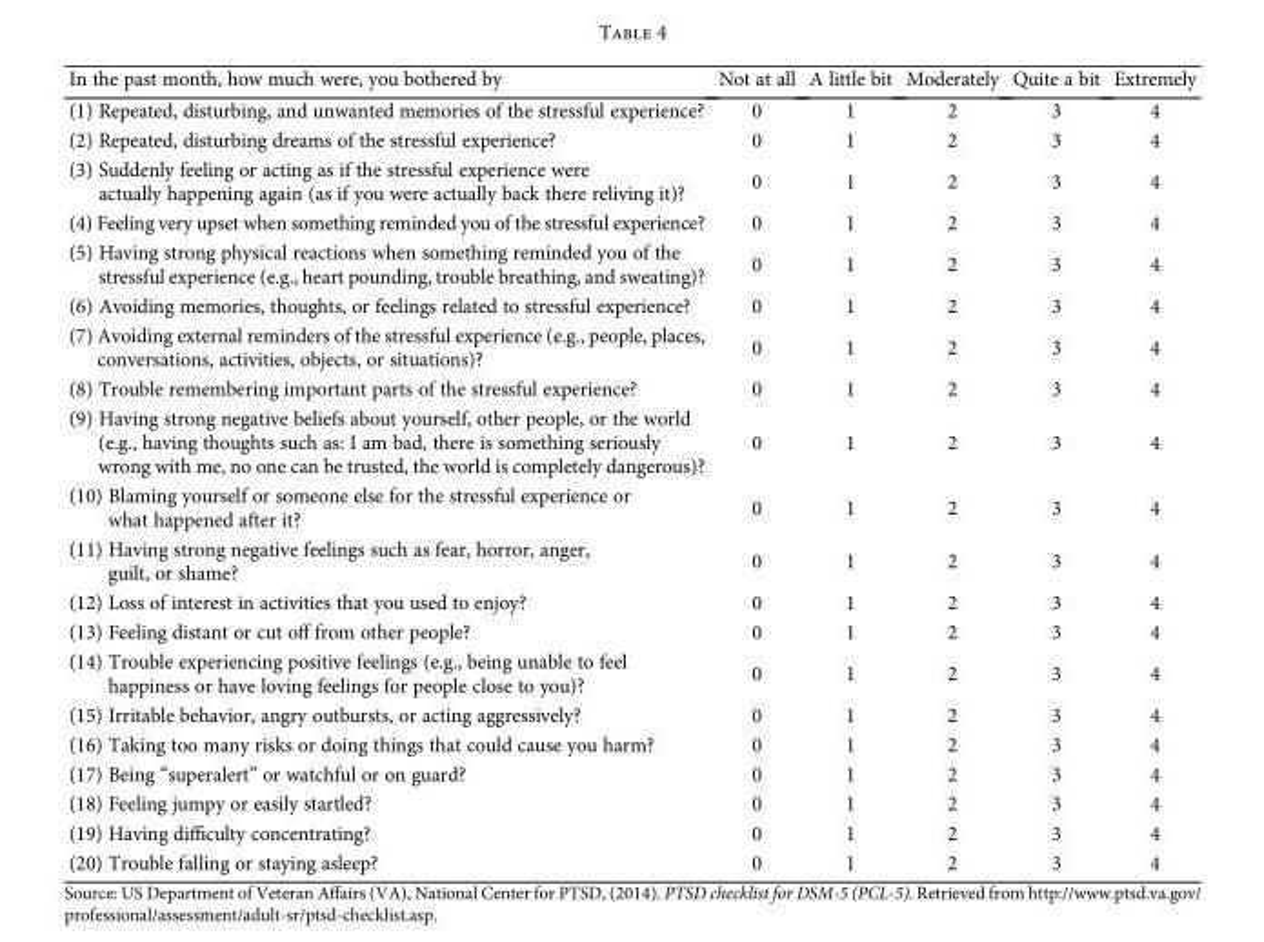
<table><thead><tr><td>In the past month, how much were, you bothered by</td><td>Not at all</td><td>A little bit</td><td>Moderately</td><td>Quite a bit</td><td>Extremely</td></tr></thead><tbody><tr><td>(1) Repeated, disturbing, and unwanted memories of the stressful experience?</td><td>0</td><td>1</td><td>2</td><td>3</td><td>4</td></tr><tr><td>(2) Repeated, disturbing dreams of the stressful experience?</td><td>0</td><td>1</td><td>2</td><td>3</td><td>4</td></tr><tr><td>(3) Suddenly feeling or acting as if the stressful experience were actually happening again (as if you were actually back there reliving it)?</td><td>0</td><td>1</td><td>2</td><td>3</td><td>4</td></tr><tr><td>(4) Feeling very upset when something reminded you of the stressful experience?</td><td>0</td><td>1</td><td>2</td><td>3</td><td>4</td></tr><tr><td>(5) Having strong physical reactions when something reminded you of the stressful experience (e.g., heart pounding, trouble breathing, and sweating)?</td><td>0</td><td>1</td><td>2</td><td>3</td><td>4</td></tr><tr><td>(6) Avoiding memories, thoughts, or feelings related to stressful experience?</td><td>0</td><td>1</td><td>2</td><td>3</td><td>4</td></tr><tr><td>(7) Avoiding external reminders of the stressful experience (e.g., people, places, conversations, activities, objects, or situations)?</td><td>0</td><td>1</td><td>2</td><td>3</td><td>4</td></tr><tr><td>(8) Trouble remembering important parts of the stressful experience?</td><td>0</td><td>1</td><td>2</td><td>3</td><td>4</td></tr><tr><td>(9) Having strong negative beliefs about yourself, other people, or the world (e.g., having thoughts such as: I am bad, there is something seriously wrong with me, no one can be trusted, the world is completely dangerous)?</td><td>0</td><td>1</td><td>2</td><td>3</td><td>4</td></tr><tr><td>(10) Blaming yourself or someone else for the stressful experience or what happened after it?</td><td>0</td><td>1</td><td>2</td><td>3</td><td>4</td></tr><tr><td>(11) Having strong negative feelings such as fear, horror, anger, guilt, or shame?</td><td>0</td><td>1</td><td>2</td><td>3</td><td>4</td></tr><tr><td>(12) Loss of interest in activities that you used to enjoy?</td><td>0</td><td>1</td><td>2</td><td>3</td><td>4</td></tr><tr><td>(13) Feeling distant or cut off from other people?</td><td>0</td><td>1</td><td>2</td><td>3</td><td>4</td></tr><tr><td>(14) Trouble experiencing positive feelings (e.g., being unable to feel happiness or have loving feelings for people close to you)?</td><td>0</td><td>1</td><td>2</td><td>3</td><td>4</td></tr><tr><td>(15) Irritable behavior, angry outbursts, or acting aggressively?</td><td>0</td><td>1</td><td>2</td><td>3</td><td>4</td></tr><tr><td>(16) Taking too many risks or doing things that could cause you harm?</td><td>0</td><td>1</td><td>2</td><td>3</td><td>4</td></tr><tr><td>(17) Being “superalert” or watchful or on guard?</td><td>0</td><td>1</td><td>2</td><td>3</td><td>4</td></tr><tr><td>(18) Feeling jumpy or easily startled?</td><td>0</td><td>1</td><td>2</td><td>3</td><td>4</td></tr><tr><td>(19) Having difficulty concentrating?</td><td>0</td><td>1</td><td>2</td><td>3</td><td>4</td></tr><tr><td>(20) Trouble falling or staying asleep?</td><td>0</td><td>1</td><td>2</td><td>3</td><td>4</td></tr></tbody></table>